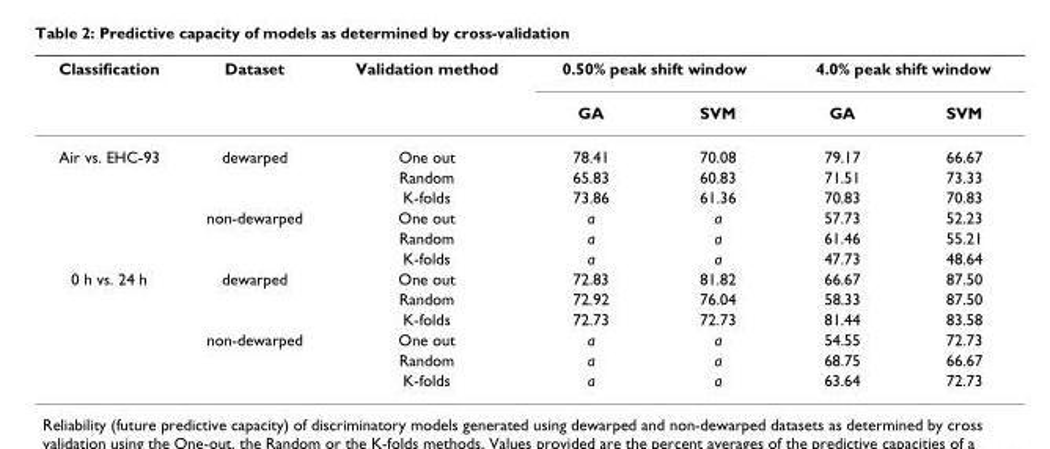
<table><thead><tr><td rowspan="2">Classification</td><td rowspan="2">Dataset</td><td rowspan="2">Validation method</td><td colspan="2">0.50% peak shift window</td><td colspan="2">4.0% peak shift window</td></tr><tr><td>GA</td><td>SVM</td><td>GA</td><td>SVM</td></tr></thead><tbody><tr><td rowspan="6">Air vs. EHC-93</td><td>dewarped</td><td>One out</td><td>78.41</td><td>70.08</td><td>79.17</td><td>66.67</td></tr><tr><td></td><td>Random</td><td>65.83</td><td>60.83</td><td>71.51</td><td>73.33</td></tr><tr><td></td><td>K-folds</td><td>73.86</td><td>61.36</td><td>70.83</td><td>70.83</td></tr><tr><td>non-dewarped</td><td>One out</td><td>a</td><td>a</td><td>57.73</td><td>52.23</td></tr><tr><td></td><td>Random</td><td>a</td><td>a</td><td>61.46</td><td>55.21</td></tr><tr><td></td><td>K-folds</td><td>a</td><td>a</td><td>47.73</td><td>48.64</td></tr><tr><td rowspan="6">0 h vs. 24 h</td><td>dewarped</td><td>One out</td><td>72.83</td><td>81.82</td><td>66.67</td><td>87.50</td></tr><tr><td></td><td>Random</td><td>72.92</td><td>76.04</td><td>58.33</td><td>87.50</td></tr><tr><td></td><td>K-folds</td><td>72.73</td><td>72.73</td><td>81.44</td><td>83.58</td></tr><tr><td>non-dewarped</td><td>One out</td><td>a</td><td>a</td><td>54.55</td><td>72.73</td></tr><tr><td></td><td>Random</td><td>a</td><td>a</td><td>68.75</td><td>66.67</td></tr><tr><td></td><td>K-folds</td><td>a</td><td>a</td><td>63.64</td><td>72.73</td></tr></tbody></table>